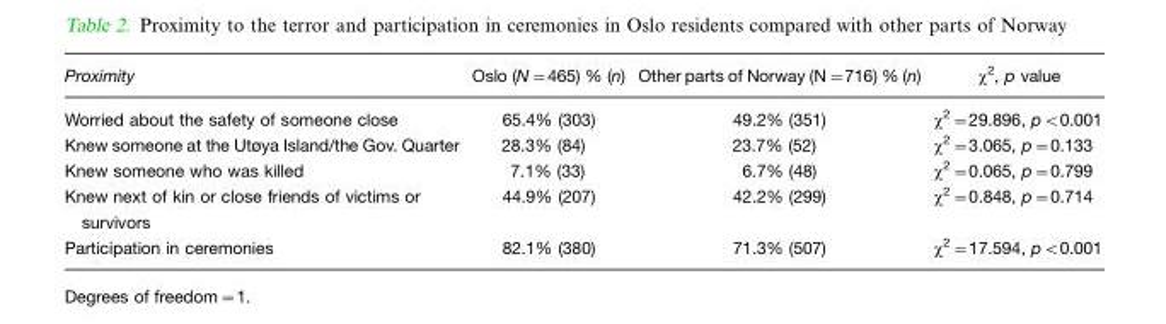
<table><thead><tr><td>Proximity</td><td>Oslo (N=465) % (n)</td><td>Other parts of Norway (N=716) % (n)</td><td>χ<sup>2</sup>, p value</td></tr></thead><tbody><tr><td>Worried about the safety of someone close</td><td>65.4% (303)</td><td>49.2% (351)</td><td>χ<sup>2</sup>=29.896, p&lt;0.001</td></tr><tr><td>Knew someone at the Utøya Island/the Gov. Quarter</td><td>28.3% (84)</td><td>23.7% (52)</td><td>χ<sup>2</sup>=3.065, p=0.133</td></tr><tr><td>Knew someone who was killed</td><td>7.1% (33)</td><td>6.7% (48)</td><td>χ<sup>2</sup>=0.065, p=0.799</td></tr><tr><td>Knew next of kin or close friends of victims or survivors</td><td>44.9% (207)</td><td>42.2% (299)</td><td>χ<sup>2</sup>=0.848, p=0.714</td></tr><tr><td>Participation in ceremonies</td><td>82.1% (380)</td><td>71.3% (507)</td><td>χ<sup>2</sup>=17.594, p&lt;0.001</td></tr></tbody></table>